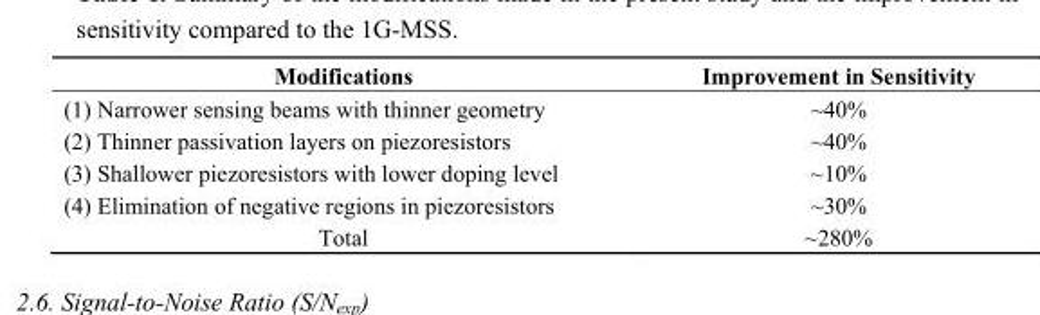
<table><thead><tr><td>Modifications</td><td>Improvement in Sensitivity</td></tr></thead><tbody><tr><td>(1) Narrower sensing beams with thinner geometry</td><td>~40%</td></tr><tr><td>(2) Thinner passivation layers on piezoresistors</td><td>~40%</td></tr><tr><td>(3) Shallower piezoresistors with lower doping level</td><td>~10%</td></tr><tr><td>(4) Elimination of negative regions in piezoresistors</td><td>~30%</td></tr><tr><td>Total</td><td>~280%</td></tr></tbody></table>